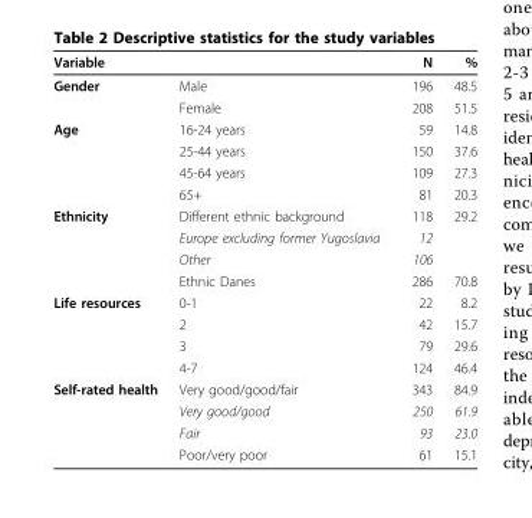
<table><thead><tr><td>Variable</td><td></td><td>N</td><td>%</td></tr></thead><tbody><tr><td rowspan="2">Gender</td><td>Male</td><td>196</td><td>48.5</td></tr><tr><td>Female</td><td>208</td><td>51.5</td></tr><tr><td rowspan="4">Age</td><td>16-24 years</td><td>59</td><td>14.8</td></tr><tr><td>25-44 years</td><td>150</td><td>37.6</td></tr><tr><td>45-64 years</td><td>109</td><td>27.3</td></tr><tr><td>65+</td><td>81</td><td>20.3</td></tr><tr><td rowspan="4">Ethnicity</td><td>Different ethnic background</td><td>118</td><td>29.2</td></tr><tr><td>Europe excluding former Yugoslavia</td><td>12</td><td></td></tr><tr><td>Other</td><td>106</td><td></td></tr><tr><td>Ethnic Danes</td><td>286</td><td>70.8</td></tr><tr><td rowspan="4">Life resources</td><td>0-1</td><td>22</td><td>8.2</td></tr><tr><td>2</td><td>42</td><td>15.7</td></tr><tr><td>3</td><td>79</td><td>29.6</td></tr><tr><td>4-7</td><td>124</td><td>46.4</td></tr><tr><td rowspan="4">Self-rated health</td><td>Very good/good/fair</td><td>343</td><td>84.9</td></tr><tr><td>Very good/good</td><td>250</td><td>61.9</td></tr><tr><td>Fair</td><td>93</td><td>23.0</td></tr><tr><td>Poor/very poor</td><td>61</td><td>15.1</td></tr></tbody></table>